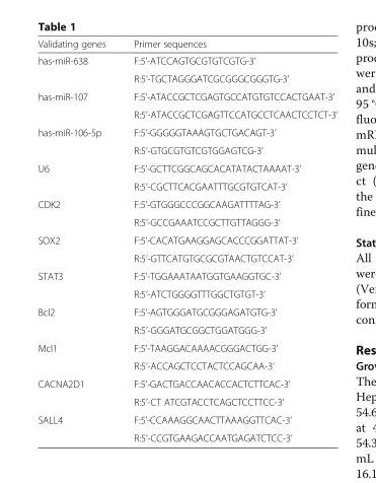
<table><thead><tr><td>Validating genes</td><td>Primer sequences</td></tr></thead><tbody><tr><td rowspan="2">has-miR-638</td><td>F:5’-ATCCAGTGCGTGTCGTG-3’</td></tr><tr><td>R:5’-TGCTAGGGATCGCGGGCGGGTG-3’</td></tr><tr><td rowspan="2">has-miR-107</td><td>F:5’-ATACCGCTCGAGTGCCATGTGTCCACTGAAT-3’</td></tr><tr><td>R:5’-ATACCGCTCGAGTTCCATGCCTCAACTCCTCT-3’</td></tr><tr><td rowspan="2">has-miR-106-5p</td><td>F:5’-GGGGGTAAAGTGCTGACAGT-3’</td></tr><tr><td>R:5’-GTGCGTGTCGTGGAGTCG-3’</td></tr><tr><td rowspan="2">U6</td><td>F:5’-GCTTCGGCAGCACATATACTAAAAT-3’</td></tr><tr><td>R:5’-CGCTTCACGAATTTGCGTGTCAT-3’</td></tr><tr><td rowspan="2">CDK2</td><td>F:5’-GTGGGCCCGGCAAGATTTTAG-3’</td></tr><tr><td>R:5’-GCCGAAATCCGCTTGTTAGGG-3’</td></tr><tr><td rowspan="2">SOX2</td><td>F:5’-CACATGAAGGAGCACCCGGATTAT-3’</td></tr><tr><td>R:5’-GTTCATGTGCGCGTAACTGTCCAT-3’</td></tr><tr><td rowspan="2">STAT3</td><td>F:5’-TGGAAATAATGGTGAAGGTGC-3’</td></tr><tr><td>R:5’-ATCTGGGGTTTGGCTGTGT-3’</td></tr><tr><td rowspan="2">Bcl2</td><td>F:5’-AGTGGGATGCGGGAGATGTG-3’</td></tr><tr><td>R:5’-GGGATGCGGCTGGATGGG-3’</td></tr><tr><td rowspan="2">Mcl1</td><td>F:5’-TAAGGACAAAACGGGACTGG-3’</td></tr><tr><td>R:5’-ACCAGCTCCTACTCCAGCAA-3’</td></tr><tr><td rowspan="2">CACNA2D1</td><td>F:5’-GACTGACCAACACCACTCTTCAC-3’</td></tr><tr><td>R:5’-CT ATCGTACCTCAGCTCCTTCC-3’</td></tr><tr><td rowspan="2">SALL4</td><td>F:5’-CCAAAGGCAACTTAAAGGTTCAC-3’</td></tr><tr><td>R:5’-CCGTGAAGACCAATGAGATCTCC-3’</td></tr></tbody></table>